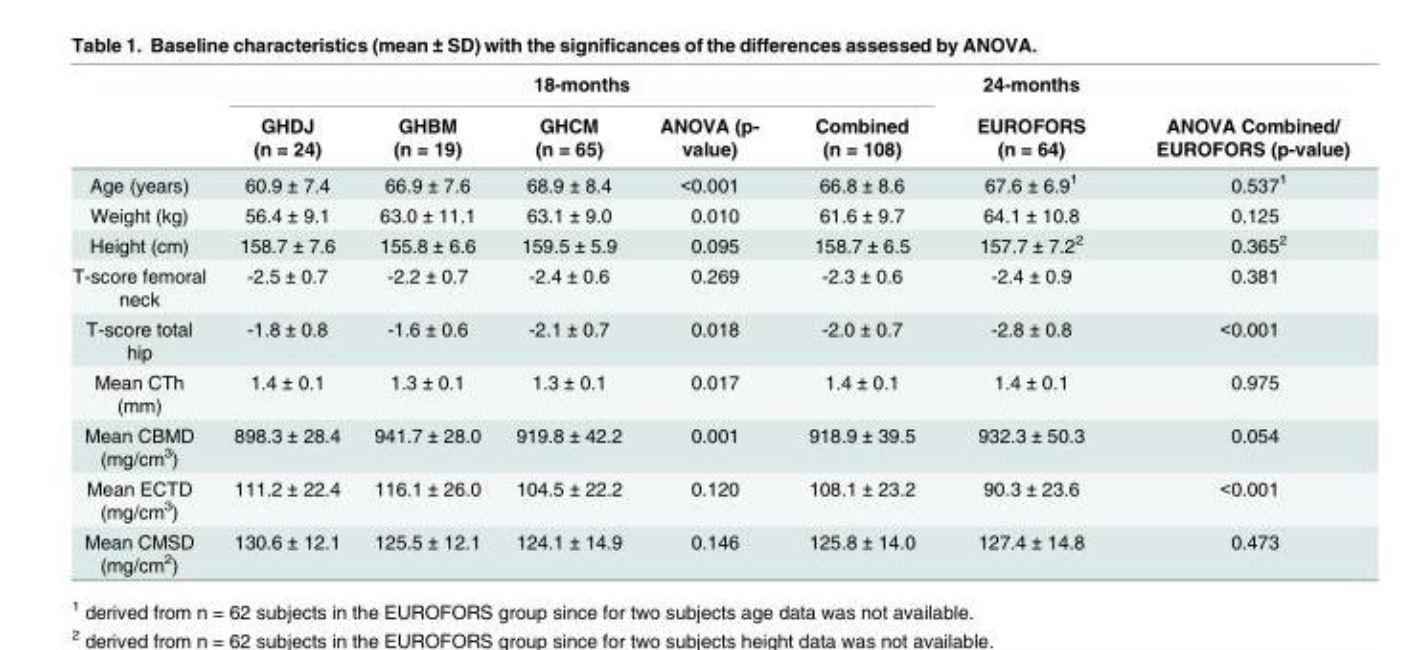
<table><thead><tr><td rowspan="2"></td><td colspan="5">18-months</td><td rowspan="2">24-months EUROFORS (n = 64)</td><td rowspan="2">ANOVA Combined/ EUROFORS (p-value)</td></tr><tr><td>GHDJ (n = 24)</td><td>GHBM (n = 19)</td><td>GHCM (n = 65)</td><td>ANOVA (p- value)</td><td>Combined (n = 108)</td></tr></thead><tbody><tr><td>Age (years)</td><td>60.9 ± 7.4</td><td>66.9 ± 7.6</td><td>68.9 ± 8.4</td><td>&lt;0.001</td><td>66.8 ± 8.6</td><td>67.6 ± 6.9<sup>1</sup></td><td>0.537<sup>1</sup></td></tr><tr><td>Weight (kg)</td><td>56.4 ± 9.1</td><td>63.0 ± 11.1</td><td>63.1 ± 9.0</td><td>0.010</td><td>61.6 ± 9.7</td><td>64.1 ± 10.8</td><td>0.125</td></tr><tr><td>Height (cm)</td><td>158.7 ± 7.6</td><td>155.8 ± 6.6</td><td>159.5 ± 5.9</td><td>0.095</td><td>158.7 ± 6.5</td><td>157.7 ± 7.2<sup>2</sup></td><td>0.365<sup>2</sup></td></tr><tr><td>T-score femoral neck</td><td>-2.5 ± 0.7</td><td>-2.2 ± 0.7</td><td>-2.4 ± 0.6</td><td>0.269</td><td>-2.3 ± 0.6</td><td>-2.4 ± 0.9</td><td>0.381</td></tr><tr><td>T-score total hip</td><td>-1.8 ± 0.8</td><td>-1.6 ± 0.6</td><td>-2.1 ± 0.7</td><td>0.018</td><td>-2.0 ± 0.7</td><td>-2.8 ± 0.8</td><td>&lt;0.001</td></tr><tr><td>Mean CTh (mm)</td><td>1.4 ± 0.1</td><td>1.3 ± 0.1</td><td>1.3 ± 0.1</td><td>0.017</td><td>1.4 ± 0.1</td><td>1.4 ± 0.1</td><td>0.975</td></tr><tr><td>Mean CBMD (mg/cm<sup>3</sup>)</td><td>898.3 ± 28.4</td><td>941.7 ± 28.0</td><td>919.8 ± 42.2</td><td>0.001</td><td>918.9 ± 39.5</td><td>932.3 ± 50.3</td><td>0.054</td></tr><tr><td>Mean ECTD (mg/cm<sup>3</sup>)</td><td>111.2 ± 22.4</td><td>116.1 ± 26.0</td><td>104.5 ± 22.2</td><td>0.120</td><td>108.1 ± 23.2</td><td>90.3 ± 23.6</td><td>&lt;0.001</td></tr><tr><td>Mean CMSD (mg/cm<sup>2</sup>)</td><td>130.6 ± 12.1</td><td>125.5 ± 12.1</td><td>124.1 ± 14.9</td><td>0.146</td><td>125.8 ± 14.0</td><td>127.4 ± 14.8</td><td>0.473</td></tr></tbody></table>